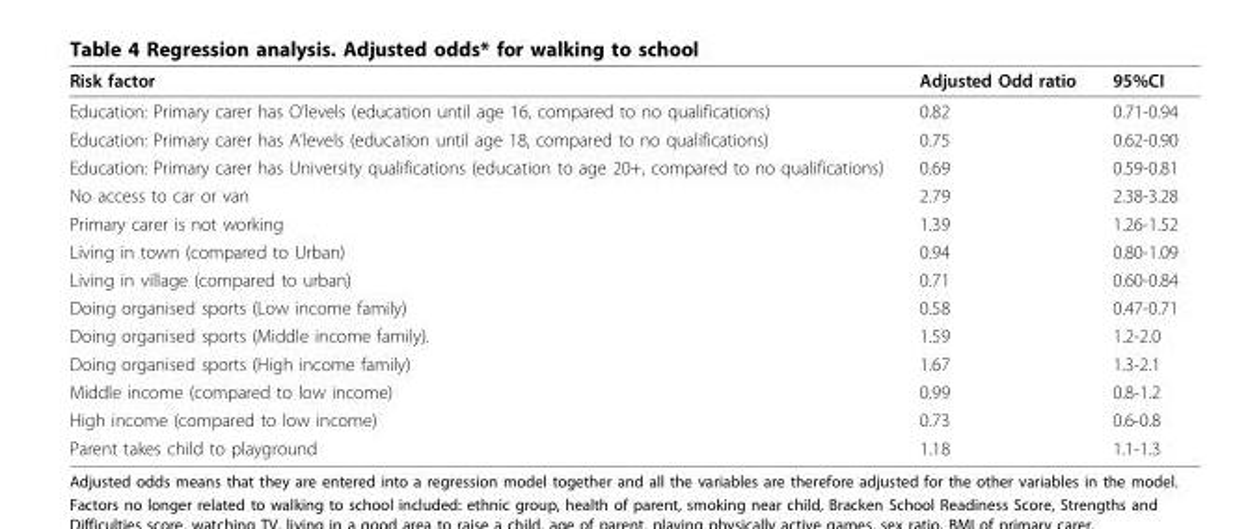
<table><thead><tr><td>Risk factor</td><td>Adjusted Odd ratio</td><td>95%CI</td></tr></thead><tbody><tr><td>Education: Primary carer has O’levels (education until age 16, compared to no qualifications)</td><td>0.82</td><td>0.71-0.94</td></tr><tr><td>Education: Primary carer has A’levels (education until age 18, compared to no qualifications)</td><td>0.75</td><td>0.62-0.90</td></tr><tr><td>Education: Primary carer has University qualifications (education to age 20+, compared to no qualifications)</td><td>0.69</td><td>0.59-0.81</td></tr><tr><td>No access to car or van</td><td>2.79</td><td>2.38-3.28</td></tr><tr><td>Primary carer is not working</td><td>1.39</td><td>1.26-1.52</td></tr><tr><td>Living in town (compared to Urban)</td><td>0.94</td><td>0.80-1.09</td></tr><tr><td>Living in village (compared to urban)</td><td>0.71</td><td>0.60-0.84</td></tr><tr><td>Doing organised sports (Low income family)</td><td>0.58</td><td>0.47-0.71</td></tr><tr><td>Doing organised sports (Middle income family).</td><td>1.59</td><td>1.2-2.0</td></tr><tr><td>Doing organised sports (High income family)</td><td>1.67</td><td>1.3-2.1</td></tr><tr><td>Middle income (compared to low income)</td><td>0.99</td><td>0.8-1.2</td></tr><tr><td>High income (compared to low income)</td><td>0.73</td><td>0.6-0.8</td></tr><tr><td>Parent takes child to playground</td><td>1.18</td><td>1.1-1.3</td></tr></tbody></table>